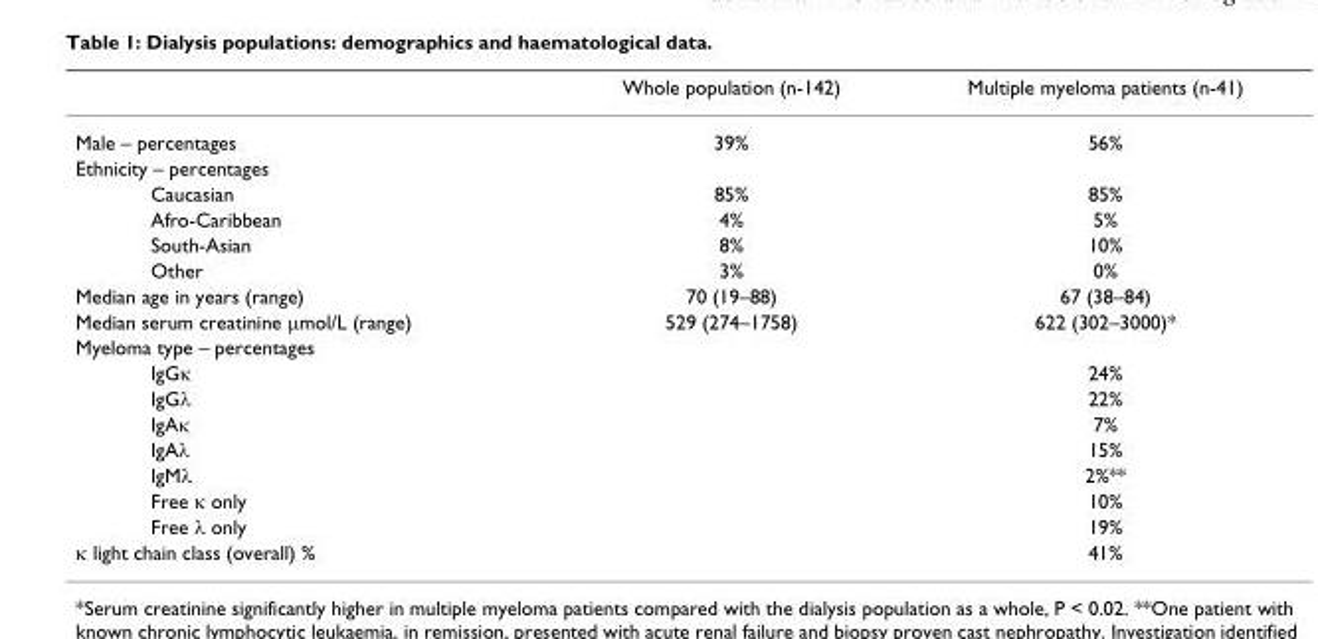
<table><thead><tr><td></td><td>Whole population (n-142)</td><td>Multiple myeloma patients (n-41)</td></tr></thead><tbody><tr><td>Male – percentages</td><td>39%</td><td>56%</td></tr><tr><td colspan="3">Ethnicity – percentages</td></tr><tr><td>Caucasian</td><td>85%</td><td>85%</td></tr><tr><td>Afro-Caribbean</td><td>4%</td><td>5%</td></tr><tr><td>South-Asian</td><td>8%</td><td>10%</td></tr><tr><td>Other</td><td>3%</td><td>0%</td></tr><tr><td>Median age in years (range)</td><td>70 (19–88)</td><td>67 (38–84)</td></tr><tr><td>Median serum creatinine μmol/L (range)</td><td>529 (274–1758)</td><td>622 (302–3000)*</td></tr><tr><td colspan="3">Myeloma type – percentages</td></tr><tr><td>IgGκ</td><td></td><td>24%</td></tr><tr><td>IgGλ</td><td></td><td>22%</td></tr><tr><td>IgAκ</td><td></td><td>7%</td></tr><tr><td>IgAλ</td><td></td><td>15%</td></tr><tr><td>IgMλ</td><td></td><td>2%**</td></tr><tr><td>Free κ only</td><td></td><td>10%</td></tr><tr><td>Free λ only</td><td></td><td>19%</td></tr><tr><td>κ light chain class (overall) %</td><td></td><td>41%</td></tr></tbody></table>